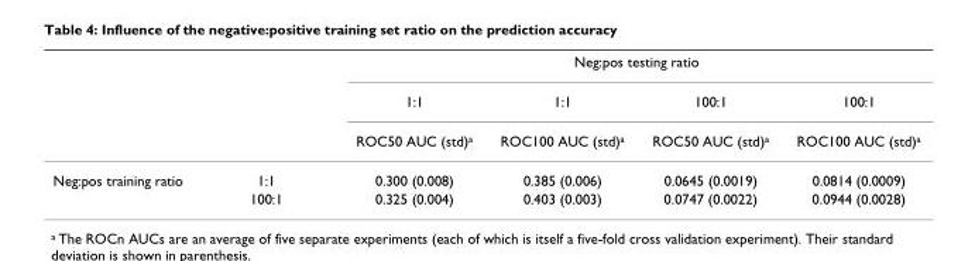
<table><thead><tr><td rowspan="3"></td><td rowspan="3"></td><td colspan="4">Neg:pos testing ratio</td></tr><tr><td rowspan="2">1:1 ROC50 AUC (std)<sup>a</sup></td><td rowspan="2">1:1 ROC100 AUC (std)a</td><td rowspan="2">100:1 ROC50 AUC (std)<sup>a</sup></td><td rowspan="2">100:1 ROC100 AUC (std)a</td></tr><tr></tr></thead><tbody><tr><td rowspan="2">Neg:pos training ratio</td><td>1:1</td><td>0.300 (0.008)</td><td>0.385 (0.006)</td><td>0.0645 (0.0019)</td><td>0.0814 (0.0009)</td></tr><tr><td>100:1</td><td>0.325 (0.004)</td><td>0.403 (0.003)</td><td>0.0747 (0.0022)</td><td>0.0944 (0.0028)</td></tr></tbody></table>